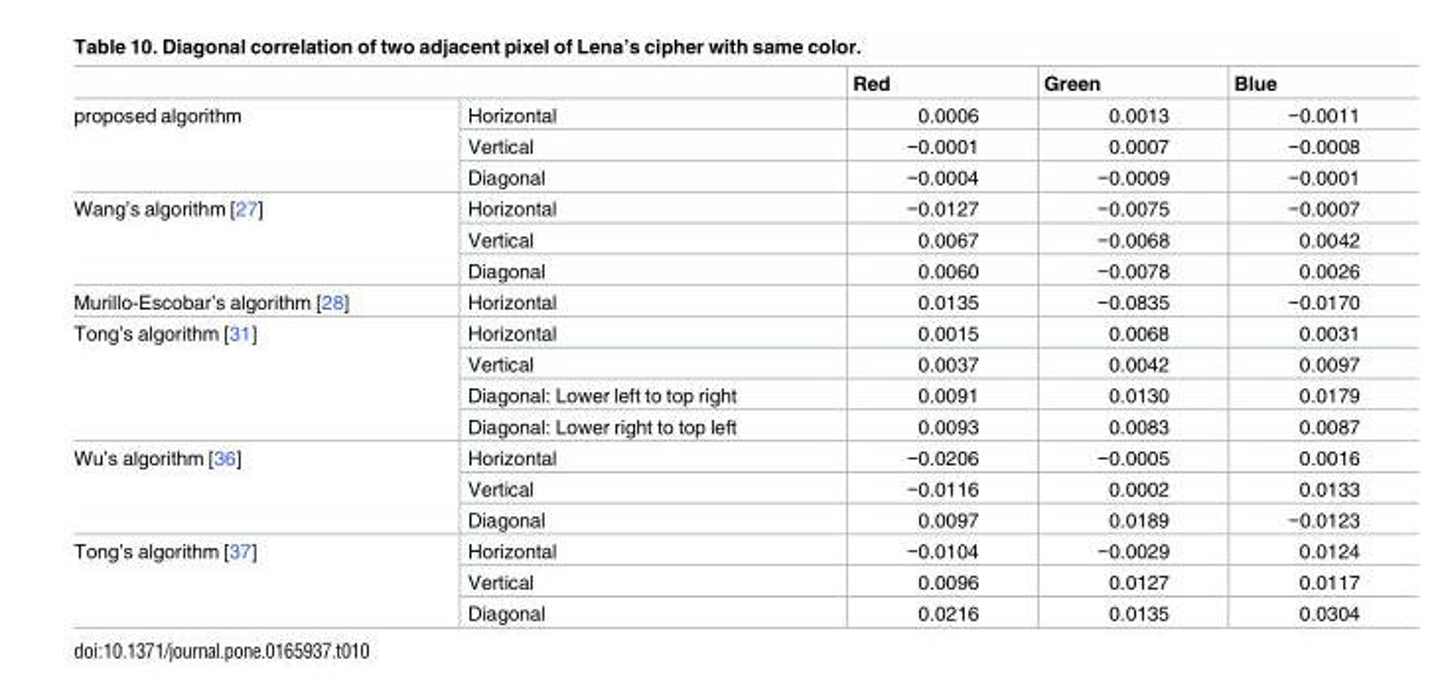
<table><thead><tr><td></td><td></td><td>Red</td><td>Green</td><td>Blue</td></tr></thead><tbody><tr><td rowspan="3">proposed algorithm</td><td>Horizontal</td><td>0.0006</td><td>0.0013</td><td>−0.0011</td></tr><tr><td>Vertical</td><td>−0.0001</td><td>0.0007</td><td>−0.0008</td></tr><tr><td>Diagonal</td><td>−0.0004</td><td>−0.0009</td><td>−0.0001</td></tr><tr><td rowspan="3">Wang’s algorithm [27]</td><td>Horizontal</td><td>−0.0127</td><td>−0.0075</td><td>−0.0007</td></tr><tr><td>Vertical</td><td>0.0067</td><td>−0.0068</td><td>0.0042</td></tr><tr><td>Diagonal</td><td>0.0060</td><td>−0.0078</td><td>0.0026</td></tr><tr><td>Murillo-Escobar’s algorithm [28]</td><td>Horizontal</td><td>0.0135</td><td>−0.0835</td><td>−0.0170</td></tr><tr><td rowspan="4">Tong’s algorithm [31]</td><td>Horizontal</td><td>0.0015</td><td>0.0068</td><td>0.0031</td></tr><tr><td>Vertical</td><td>0.0037</td><td>0.0042</td><td>0.0097</td></tr><tr><td>Diagonal: Lower left to top right</td><td>0.0091</td><td>0.0130</td><td>0.0179</td></tr><tr><td>Diagonal: Lower right to top left</td><td>0.0093</td><td>0.0083</td><td>0.0087</td></tr><tr><td rowspan="3">Wu’s algorithm [36]</td><td>Horizontal</td><td>−0.0206</td><td>−0.0005</td><td>0.0016</td></tr><tr><td>Vertical</td><td>−0.0116</td><td>0.0002</td><td>0.0133</td></tr><tr><td>Diagonal</td><td>0.0097</td><td>0.0189</td><td>−0.0123</td></tr><tr><td rowspan="3">Tong’s algorithm [37]</td><td>Horizontal</td><td>−0.0104</td><td>−0.0029</td><td>0.0124</td></tr><tr><td>Vertical</td><td>0.0096</td><td>0.0127</td><td>0.0117</td></tr><tr><td>Diagonal</td><td>0.0216</td><td>0.0135</td><td>0.0304</td></tr></tbody></table>